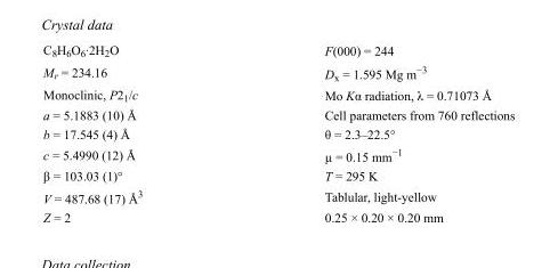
<table><tbody><tr><td>C<sub>8</sub>H<sub>6</sub>O<sub>6</sub>·2H<sub>2</sub>O</td><td>F(000) = 244</td></tr><tr><td>M<sub>r</sub> = 234.16</td><td>D<sub>x</sub> = 1.595 Mg m<sup>−3</sup></td></tr><tr><td>Monoclinic, P2<sub>1</sub>/c</td><td>Mo Kα radiation, λ = 0.71073 Å</td></tr><tr><td>a = 5.1883 (10) Å</td><td>Cell parameters from 760 reflections</td></tr><tr><td>b = 17.545 (4) Å</td><td>θ = 2.3–22.5°</td></tr><tr><td>c = 5.4990 (12) Å</td><td>µ = 0.15 mm<sup>−1</sup></td></tr><tr><td>β = 103.03 (1)°</td><td>T = 295 K</td></tr><tr><td>V = 487.68 (17) Å<sup>3</sup></td><td>Tablular, light-yellow</td></tr><tr><td>Z = 2</td><td>0.25 × 0.20 × 0.20 mm</td></tr></tbody></table>